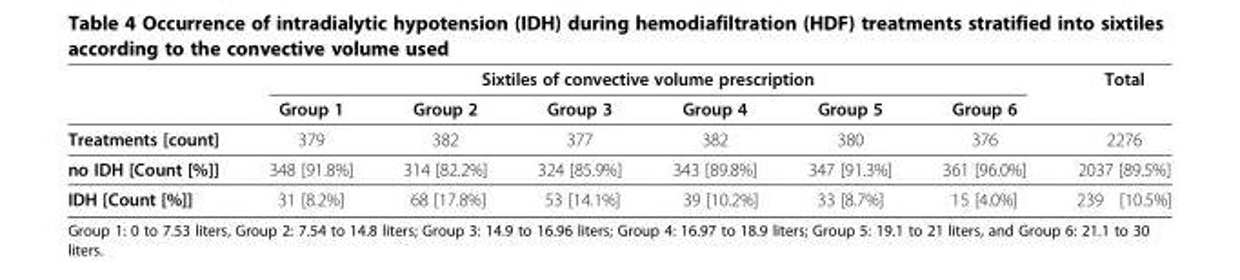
<table><thead><tr><td rowspan="2"></td><td colspan="6">Sixtiles of convective volume prescription</td><td rowspan="2">Total</td></tr><tr><td>Group 1</td><td>Group 2</td><td>Group 3</td><td>Group 4</td><td>Group 5</td><td>Group 6</td></tr></thead><tbody><tr><td>Treatments [count]</td><td>379</td><td>382</td><td>377</td><td>382</td><td>380</td><td>376</td><td>2276</td></tr><tr><td>no IDH [Count [%]]</td><td>348 [91.8%]</td><td>314 [82.2%]</td><td>324 [85.9%]</td><td>343 [89.8%]</td><td>347 [91.3%]</td><td>361 [96.0%]</td><td>2037 [89.5%]</td></tr><tr><td>IDH [Count [%]]</td><td>31 [8.2%]</td><td>68 [17.8%]</td><td>53 [14.1%]</td><td>39 [10.2%]</td><td>33 [8.7%]</td><td>15 [4.0%]</td><td>239 [10.5%]</td></tr></tbody></table>